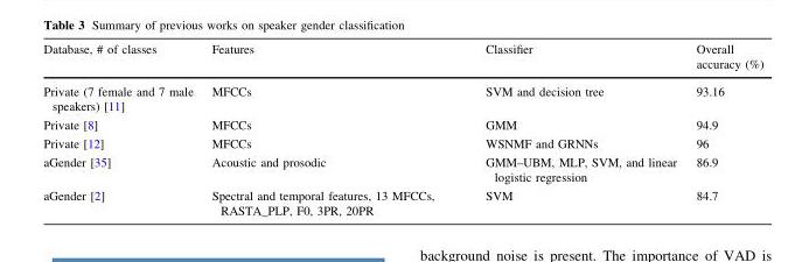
<table><thead><tr><td>Database, # of classes</td><td>Features</td><td>Classifier</td><td>Overall accuracy (%)</td></tr></thead><tbody><tr><td>Private (7 female and 7 male speakers) [11]</td><td>MFCCs</td><td>SVM and decision tree</td><td>93.16</td></tr><tr><td>Private [8]</td><td>MFCCs</td><td>GMM</td><td>94.9</td></tr><tr><td>Private [12]</td><td>MFCCs</td><td>WSNMF and GRNNs</td><td>96</td></tr><tr><td>aGender [35]</td><td>Acoustic and prosodic</td><td>GMM–UBM, MLP, SVM, and linear logistic regression</td><td>86.9</td></tr><tr><td>aGender [2]</td><td>Spectral and temporal features, 13 MFCCs, RASTA_PLP, F0, 3PR, 20PR</td><td>SVM</td><td>84.7</td></tr></tbody></table>